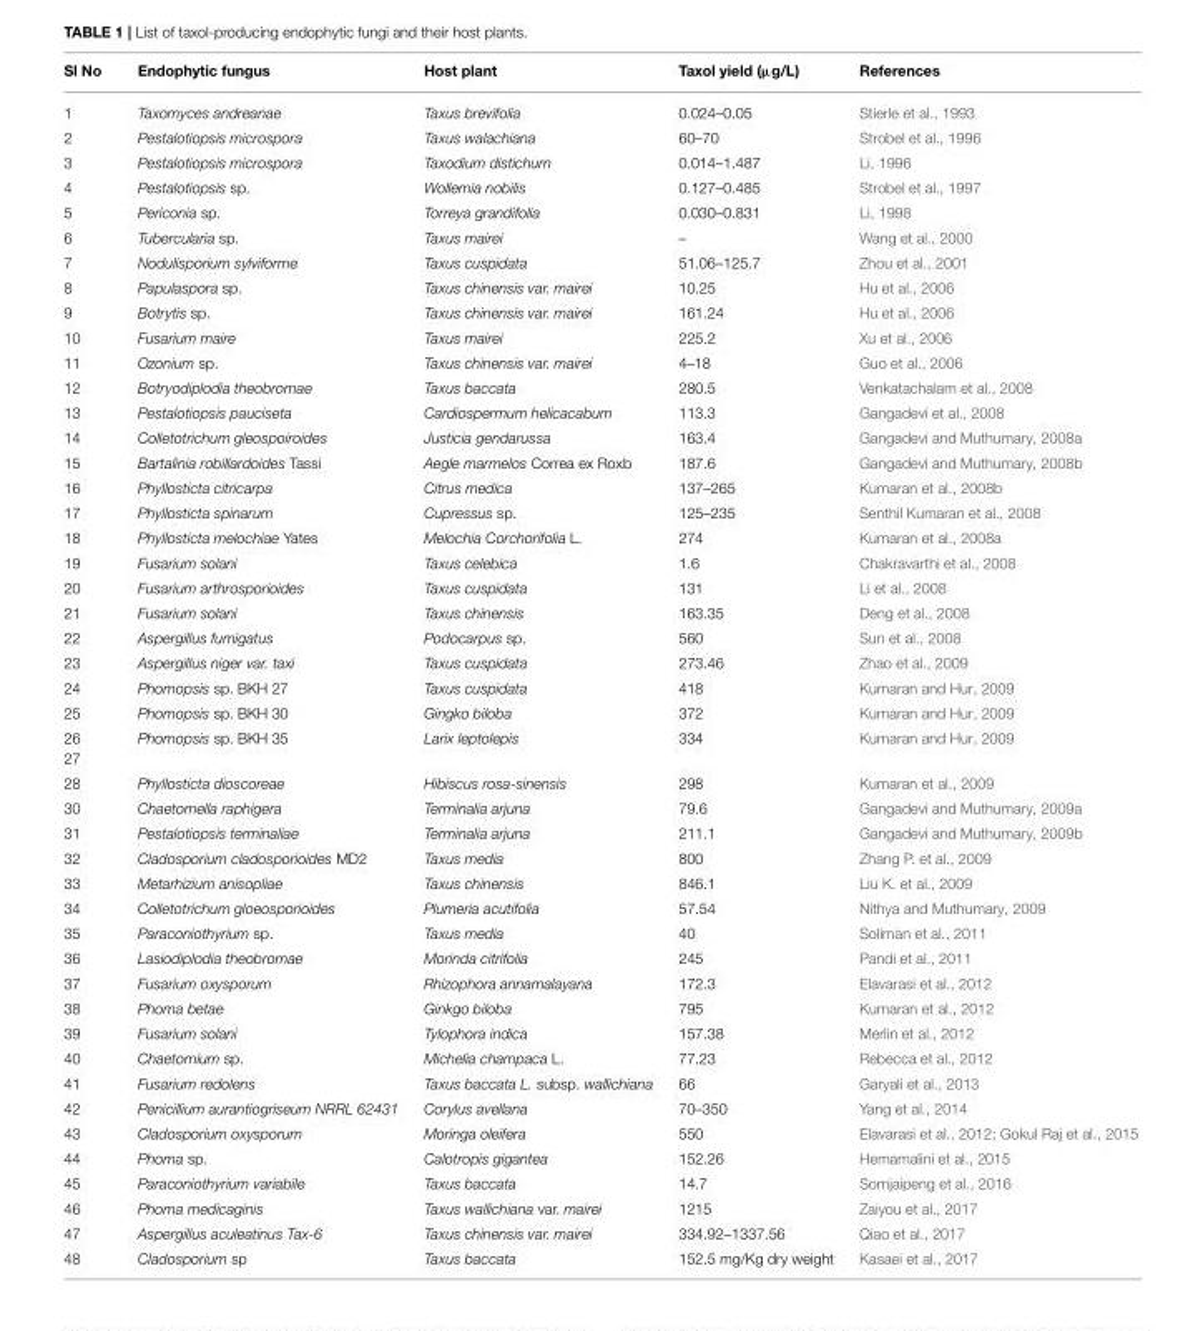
<table><thead><tr><td>Sl No</td><td>Endophytic fungus</td><td>Host plant</td><td>Taxol yield (µg/L)</td><td>References</td></tr></thead><tbody><tr><td>1</td><td>Taxomyces andreanae</td><td>Taxus brevifolia</td><td>0.024–0.05</td><td>Stierle et al., 1993</td></tr><tr><td>2</td><td>Pestalotiopsis microspora</td><td>Taxus walachiana</td><td>60–70</td><td>Strobel et al., 1996</td></tr><tr><td>3</td><td>Pestalotiopsis microspora</td><td>Taxodium distichurn</td><td>0.014–1.487</td><td>Li, 1996</td></tr><tr><td>4</td><td>Pestalotiopsis sp.</td><td>Wollemia nobilis</td><td>0.127–0.485</td><td>Strobel et al., 1997</td></tr><tr><td>5</td><td>Periconia sp.</td><td>Torreya grandifolia</td><td>0.030–0.831</td><td>Li, 1998</td></tr><tr><td>6</td><td>Tubercularia sp.</td><td>Taxus mairei</td><td>–</td><td>Wang et al., 2000</td></tr><tr><td>7</td><td>Nodulisporium sylviforme</td><td>Taxus cuspidata</td><td>51.06–125.7</td><td>Zhou et al., 2001</td></tr><tr><td>8</td><td>Papulaspora sp.</td><td>Taxus chinensis var. mairei</td><td>10.25</td><td>Hu et al., 2006</td></tr><tr><td>9</td><td>Botrytis sp.</td><td>Taxus chinensis var. mairei</td><td>161.24</td><td>Hu et al., 2006</td></tr><tr><td>10</td><td>Fusarium maire</td><td>Taxus mairei</td><td>225.2</td><td>Xu et al., 2006</td></tr><tr><td>11</td><td>Ozonium sp.</td><td>Taxus chinensis var. mairei</td><td>4–18</td><td>Guo et al., 2006</td></tr><tr><td>12</td><td>Botryodiplodia theobromae</td><td>Taxus baccata</td><td>280.5</td><td>Venkatachalam et al., 2008</td></tr><tr><td>13</td><td>Pestalotiopsis pauciseta</td><td>Cardiospermum helicacabum</td><td>113.3</td><td>Gangadevi et al., 2008</td></tr><tr><td>14</td><td>Colletotrichum gleospoiroides</td><td>Justicia gendarussa</td><td>163.4</td><td>Gangadevi and Muthumary, 2008a</td></tr><tr><td>15</td><td>Bartalinia robillardoides Tassi</td><td>Aegle marmelos Correa ex Roxb</td><td>187.6</td><td>Gangadevi and Muthumary, 2008b</td></tr><tr><td>16</td><td>Phyllosticta citricarpa</td><td>Citrus medica</td><td>137–265</td><td>Kumaran et al., 2008b</td></tr><tr><td>17</td><td>Phyllosticta spinarum</td><td>Cupressus sp.</td><td>125–235</td><td>Senthil Kumaran et al., 2008</td></tr><tr><td>18</td><td>Phyllosticta melochiae Yates</td><td>Melochia Corchorifolia L.</td><td>274</td><td>Kumaran et al., 2008a</td></tr><tr><td>19</td><td>Fusarium solani</td><td>Taxus celebica</td><td>1.6</td><td>Chakravarthi et al., 2008</td></tr><tr><td>20</td><td>Fusarium arthrosporioides</td><td>Taxus cuspidata</td><td>131</td><td>Li et al., 2008</td></tr><tr><td>21</td><td>Fusarium solani</td><td>Taxus chinensis</td><td>163.35</td><td>Deng et al., 2008</td></tr><tr><td>22</td><td>Aspergillus fumigatus</td><td>Podocarpus sp.</td><td>560</td><td>Sun et al., 2008</td></tr><tr><td>23</td><td>Aspergillus niger var. taxi</td><td>Taxus cuspidata</td><td>273.46</td><td>Zhao et al., 2009</td></tr><tr><td>24</td><td>Phomopsis sp. BKH 27</td><td>Taxus cuspidata</td><td>418</td><td>Kumaran and Hur, 2009</td></tr><tr><td>25</td><td>Phomopsis sp. BKH 30</td><td>Gingko biloba</td><td>372</td><td>Kumaran and Hur, 2009</td></tr><tr><td>26 27</td><td>Phomopsis sp. BKH 35</td><td>Larix leptolepis</td><td>334</td><td>Kumaran and Hur, 2009</td></tr><tr><td>28</td><td>Phyllosticta dioscoreae</td><td>Hibiscus rosa-sinensis</td><td>298</td><td>Kumaran et al., 2009</td></tr><tr><td>30</td><td>Chaetomella raphigera</td><td>Terminalia arjuna</td><td>79.6</td><td>Gangadevi and Muthumary, 2009a</td></tr><tr><td>31</td><td>Pestalotiopsis terminaliae</td><td>Terminalia arjuna</td><td>211.1</td><td>Gangadevi and Muthumary, 2009b</td></tr><tr><td>32</td><td>Cladosporium cladosporioides MD2</td><td>Taxus media</td><td>800</td><td>Zhang P. et al., 2009</td></tr><tr><td>33</td><td>Metarhizium anisopliae</td><td>Taxus chinensis</td><td>846.1</td><td>Liu K. et al., 2009</td></tr><tr><td>34</td><td>Colletotrichum gloeosporioides</td><td>Plumeria acutifolia</td><td>57.54</td><td>Nithya and Muthumary, 2009</td></tr><tr><td>35</td><td>Paraconiothyrium sp.</td><td>Taxus media</td><td>40</td><td>Soliman et al., 2011</td></tr><tr><td>36</td><td>Lasiodiplodia theobromae</td><td>Morinda citrifolia</td><td>245</td><td>Pandi et al., 2011</td></tr><tr><td>37</td><td>Fusarium oxysporum</td><td>Rhizophora annamalayana</td><td>172.3</td><td>Elavarasi et al., 2012</td></tr><tr><td>38</td><td>Phoma betae</td><td>Ginkgo biloba</td><td>795</td><td>Kumaran et al., 2012</td></tr><tr><td>39</td><td>Fusarium solani</td><td>Tylophora indica</td><td>157.38</td><td>Merlin et al., 2012</td></tr><tr><td>40</td><td>Chaetomium sp.</td><td>Michelia champaca L.</td><td>77.23</td><td>Rebecca et al., 2012</td></tr><tr><td>41</td><td>Fusarium redolens</td><td>Taxus baccata L. subsp. wallichiana</td><td>66</td><td>Garyali et al., 2013</td></tr><tr><td>42</td><td>Penicillium aurantiogriseum NRRL 62431</td><td>Corylus avellana</td><td>70–350</td><td>Yang et al., 2014</td></tr><tr><td>43</td><td>Cladosporium oxysporum</td><td>Moringa oleifera</td><td>550</td><td>Elavarasi et al., 2012; Gokul Raj et al., 2015</td></tr><tr><td>44</td><td>Phoma sp.</td><td>Calotropis gigantea</td><td>152.26</td><td>Hemamalini et al., 2015</td></tr><tr><td>45</td><td>Paraconiothyrium variabile</td><td>Taxus baccata</td><td>14.7</td><td>Somjaipeng et al., 2016</td></tr><tr><td>46</td><td>Phoma medicaginis</td><td>Taxus wallichiana var. mairei</td><td>1215</td><td>Zaiyou et al., 2017</td></tr><tr><td>47</td><td>Aspergillus aculeatinus Tax-6</td><td>Taxus chinensis var. mairei</td><td>334.92–1337.56</td><td>Qiao et al., 2017</td></tr><tr><td>48</td><td>Cladosporium sp</td><td>Taxus baccata</td><td>152.5 mg/Kg dry weight</td><td>Kasaei et al., 2017</td></tr></tbody></table>